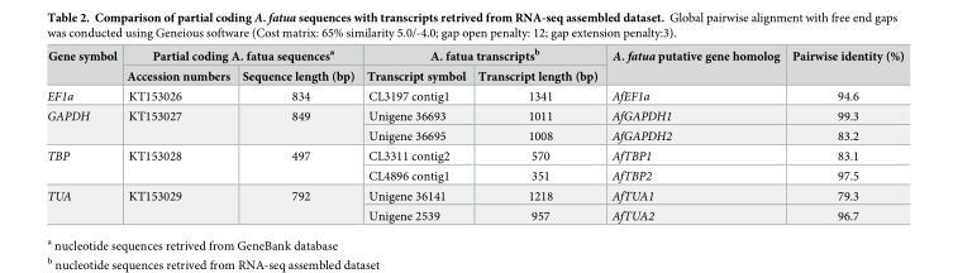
<table><thead><tr><td rowspan="2">Gene symbol</td><td colspan="2">Partial coding A. fatua sequences<sup>a</sup></td><td colspan="2">A. fatua transcripts<sup>b</sup></td><td rowspan="2">A. fatua putative gene homolog</td><td rowspan="2">Pairwise identity (%)</td></tr><tr><td>Accession numbers</td><td>Sequence length (bp)</td><td>Transcript symbol</td><td>Transcript length (bp)</td></tr></thead><tbody><tr><td>EF1a</td><td>KT153026</td><td>834</td><td>CL3197 contig1</td><td>1341</td><td>AfEF1a</td><td>94.6</td></tr><tr><td rowspan="2">GAPDH</td><td rowspan="2">KT153027</td><td rowspan="2">849</td><td>Unigene 36693</td><td>1011</td><td>AfGAPDH1</td><td>99.3</td></tr><tr><td>Unigene 36695</td><td>1008</td><td>AfGAPDH2</td><td>83.2</td></tr><tr><td rowspan="2">TBP</td><td rowspan="2">KT153028</td><td rowspan="2">497</td><td>CL3311 contig2</td><td>570</td><td>AfTBP1</td><td>83.1</td></tr><tr><td>CL4896 contig1</td><td>351</td><td>AfTBP2</td><td>97.5</td></tr><tr><td rowspan="2">TUA</td><td rowspan="2">KT153029</td><td rowspan="2">792</td><td>Unigene 36141</td><td>1218</td><td>AfTUA1</td><td>79.3</td></tr><tr><td>Unigene 2539</td><td>957</td><td>AfTUA2</td><td>96.7</td></tr></tbody></table>